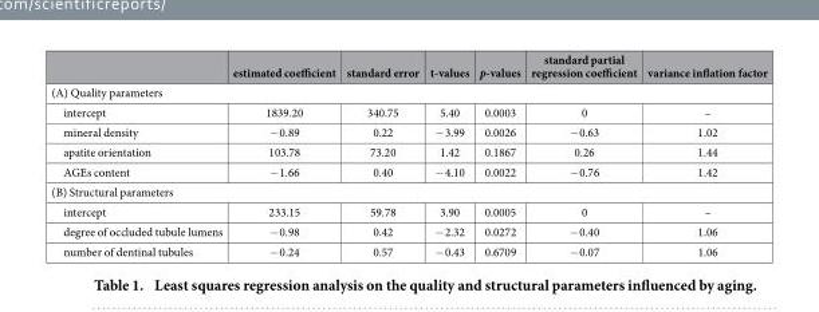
<table><thead><tr><td></td><td>estimated coefficient</td><td>standard error</td><td>t-values</td><td>p-values</td><td>standard partial regression coefficient</td><td>variance inflation factor</td></tr></thead><tbody><tr><td colspan="7">(A) Quality parameters</td></tr><tr><td>intercept</td><td>1839.20</td><td>340.75</td><td>5.40</td><td>0.0003</td><td>0</td><td>–</td></tr><tr><td>mineral density</td><td>− 0.89</td><td>0.22</td><td>− 3.99</td><td>0.0026</td><td>− 0.63</td><td>1.02</td></tr><tr><td>apatite orientation</td><td>103.78</td><td>73.20</td><td>1.42</td><td>0.1867</td><td>0.26</td><td>1.44</td></tr><tr><td>AGEs content</td><td>− 1.66</td><td>0.40</td><td>− 4.10</td><td>0.0022</td><td>− 0.76</td><td>1.42</td></tr><tr><td colspan="7">(B) Structural parameters</td></tr><tr><td>intercept</td><td>233.15</td><td>59.78</td><td>3.90</td><td>0.0005</td><td>0</td><td>–</td></tr><tr><td>degree of occluded tubule lumens</td><td>− 0.98</td><td>0.42</td><td>− 2.32</td><td>0.0272</td><td>− 0.40</td><td>1.06</td></tr><tr><td>number of dentinal tubules</td><td>− 0.24</td><td>0.57</td><td>− 0.43</td><td>0.6709</td><td>− 0.07</td><td>1.06</td></tr></tbody></table>